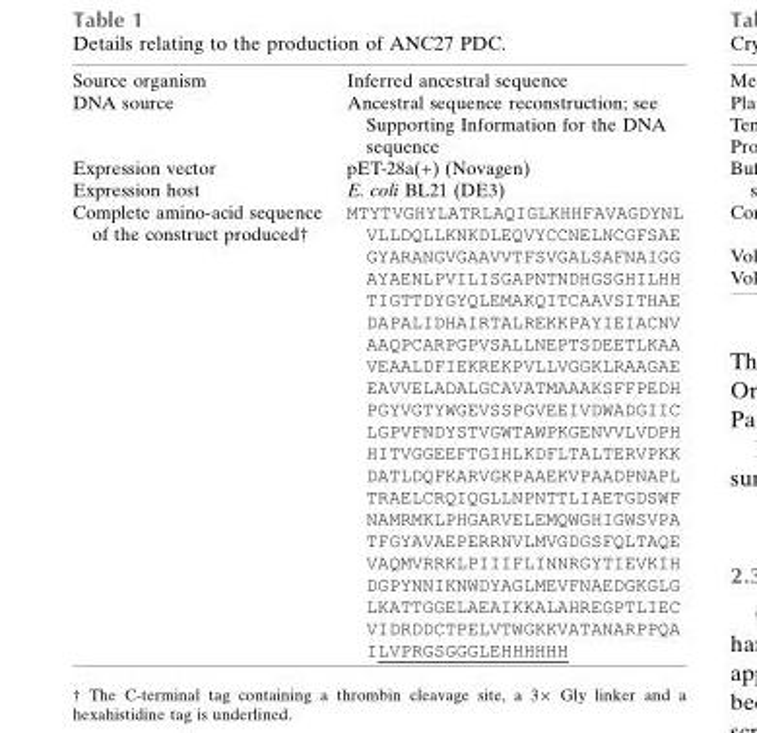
<table><tbody><tr><td>Source organism</td><td>Inferred ancestral sequence</td></tr><tr><td>DNA source</td><td>Ancestral sequence reconstruction; see Supporting Information for the DNA sequence</td></tr><tr><td>Expression vector</td><td>pET-28a(+) (Novagen)</td></tr><tr><td>Expression host</td><td>E. coli BL21 (DE3)</td></tr><tr><td>Complete amino-acid sequence of the construct produced†</td><td>MTYTVGHYLATRLAQIGLKHHFAVAGDYNL VLLDQLLKNKDLEQVYCCNELNCGFSAE GYARANGVGAAVVTFSVGALSAFNAIGG AYAENLPVILISGAPNTNDHGSGHILHH TIGTTDYGYQLEMAKQITCAAVSITHAE DAPALIDHAIRTALREKKPAYIEIACNV AAQPCARPGPVSALLNEPTSDEETLKAA VEAALDFIEKREKPVLLVGGKLRAAGAE EAVVELADALGCAVATMAAAKSFFPEDH PGYVGTYWGEVSSPGVEEIVDWADGIIC LGPVFNDYSTVGWTAWPKGENVVLVDPH HITVGGEEFTGIHLKDFLTALTERVPKK DATLDQFKARVGKPAAEKVPAADPNAPL TRAELCRQIQGLLNPNTTLIAETGDSWF NAMRMKLPHGARVELEMQWGHIGWSVPA TFGYAVAEPERRNVLMVGDGSFQLTAQE VAQMVRRKLPIIIFLINNRGYTIEVKIH DGPYNNIKNWDYAGLMEVFNAEDGKGLG LKATTGGELAEAIKKALAHREGPTLIEC VIDRDDCTPELVTWGKKVATANARPPQA ILVPRGSGGGLEHHHHHH</td></tr></tbody></table>